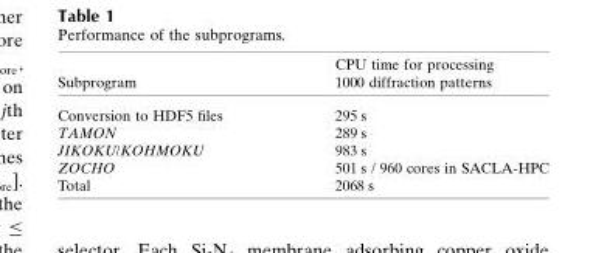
<table><thead><tr><td>Subprogram</td><td>CPU time for processing 1000 diffraction patterns</td></tr></thead><tbody><tr><td>Conversion to HDF5 files</td><td>295 s</td></tr><tr><td>TAMON</td><td>289 s</td></tr><tr><td>JIKOKU/KOHMOKU</td><td>983 s</td></tr><tr><td>ZOCHO</td><td>501 s / 960 cores in SACLA-HPC</td></tr><tr><td>Total</td><td>2068 s</td></tr></tbody></table>